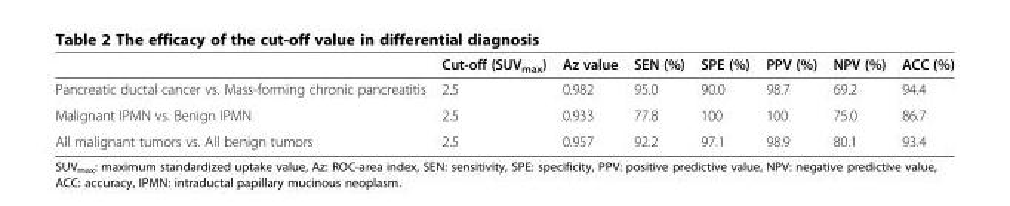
<table><thead><tr><td></td><td>Cut-off (SUV<sub>max</sub>)</td><td>Az value</td><td>SEN (%)</td><td>SPE (%)</td><td>PPV (%)</td><td>NPV (%)</td><td>ACC (%)</td></tr></thead><tbody><tr><td>Pancreatic ductal cancer vs. Mass-forming chronic pancreatitis</td><td>2.5</td><td>0.982</td><td>95.0</td><td>90.0</td><td>98.7</td><td>69.2</td><td>94.4</td></tr><tr><td>Malignant IPMN vs. Benign IPMN</td><td>2.5</td><td>0.933</td><td>77.8</td><td>100</td><td>100</td><td>75.0</td><td>86.7</td></tr><tr><td>All malignant tumors vs. All benign tumors</td><td>2.5</td><td>0.957</td><td>92.2</td><td>97.1</td><td>98.9</td><td>80.1</td><td>93.4</td></tr></tbody></table>